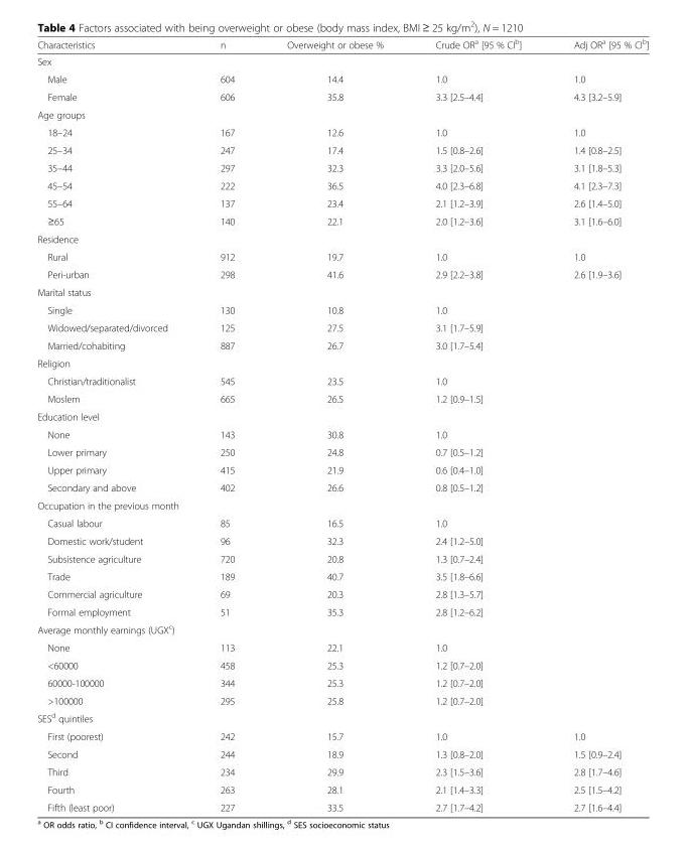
<table><thead><tr><td>Characteristics</td><td>n</td><td>Overweight or obese %</td><td>Crude OR<sup>a</sup> [95 % CI<sup>b</sup>]</td><td>Adj OR<sup>a</sup> [95 % CI<sup>b</sup>]</td></tr></thead><tbody><tr><td colspan="5">Sex</td></tr><tr><td>Male</td><td>604</td><td>14.4</td><td>1.0</td><td>1.0</td></tr><tr><td>Female</td><td>606</td><td>35.8</td><td>3.3 [2.5–4.4]</td><td>4.3 [3.2–5.9]</td></tr><tr><td colspan="5">Age groups</td></tr><tr><td>18–24</td><td>167</td><td>12.6</td><td>1.0</td><td>1.0</td></tr><tr><td>25–34</td><td>247</td><td>17.4</td><td>1.5 [0.8–2.6]</td><td>1.4 [0.8–2.5]</td></tr><tr><td>35–44</td><td>297</td><td>32.3</td><td>3.3 [2.0–5.6]</td><td>3.1 [1.8–5.3]</td></tr><tr><td>45–54</td><td>222</td><td>36.5</td><td>4.0 [2.3–6.8]</td><td>4.1 [2.3–7.3]</td></tr><tr><td>55–64</td><td>137</td><td>23.4</td><td>2.1 [1.2–3.9]</td><td>2.6 [1.4–5.0]</td></tr><tr><td>≥65</td><td>140</td><td>22.1</td><td>2.0 [1.2–3.6]</td><td>3.1 [1.6–6.0]</td></tr><tr><td colspan="5">Residence</td></tr><tr><td>Rural</td><td>912</td><td>19.7</td><td>1.0</td><td>1.0</td></tr><tr><td>Peri-urban</td><td>298</td><td>41.6</td><td>2.9 [2.2–3.8]</td><td>2.6 [1.9–3.6]</td></tr><tr><td colspan="5">Marital status</td></tr><tr><td>Single</td><td>130</td><td>10.8</td><td>1.0</td><td></td></tr><tr><td>Widowed/separated/divorced</td><td>125</td><td>27.5</td><td>3.1 [1.7–5.9]</td><td></td></tr><tr><td>Married/cohabiting</td><td>887</td><td>26.7</td><td>3.0 [1.7–5.4]</td><td></td></tr><tr><td colspan="5">Religion</td></tr><tr><td>Christian/traditionalist</td><td>545</td><td>23.5</td><td>1.0</td><td></td></tr><tr><td>Moslem</td><td>665</td><td>26.5</td><td>1.2 [0.9–1.5]</td><td></td></tr><tr><td colspan="5">Education level</td></tr><tr><td>None</td><td>143</td><td>30.8</td><td>1.0</td><td></td></tr><tr><td>Lower primary</td><td>250</td><td>24.8</td><td>0.7 [0.5–1.2]</td><td></td></tr><tr><td>Upper primary</td><td>415</td><td>21.9</td><td>0.6 [0.4–1.0]</td><td></td></tr><tr><td>Secondary and above</td><td>402</td><td>26.6</td><td>0.8 [0.5–1.2]</td><td></td></tr><tr><td colspan="5">Occupation in the previous month</td></tr><tr><td>Casual labour</td><td>85</td><td>16.5</td><td>1.0</td><td></td></tr><tr><td>Domestic work/student</td><td>96</td><td>32.3</td><td>2.4 [1.2–5.0]</td><td></td></tr><tr><td>Subsistence agriculture</td><td>720</td><td>20.8</td><td>1.3 [0.7–2.4]</td><td></td></tr><tr><td>Trade</td><td>189</td><td>40.7</td><td>3.5 [1.8–6.6]</td><td></td></tr><tr><td>Commercial agriculture</td><td>69</td><td>20.3</td><td>2.8 [1.3–5.7]</td><td></td></tr><tr><td>Formal employment</td><td>51</td><td>35.3</td><td>2.8 [1.2–6.2]</td><td></td></tr><tr><td colspan="5">Average monthly earnings (UGX<sup>c</sup>)</td></tr><tr><td>None</td><td>113</td><td>22.1</td><td>1.0</td><td></td></tr><tr><td>&lt;60000</td><td>458</td><td>25.3</td><td>1.2 [0.7–2.0]</td><td></td></tr><tr><td>60000-100000</td><td>344</td><td>25.3</td><td>1.2 [0.7–2.0]</td><td></td></tr><tr><td>&gt;100000</td><td>295</td><td>25.8</td><td>1.2 [0.7–2.0]</td><td></td></tr><tr><td colspan="5">SES<sup>d</sup> quintiles</td></tr><tr><td>First (poorest)</td><td>242</td><td>15.7</td><td>1.0</td><td>1.0</td></tr><tr><td>Second</td><td>244</td><td>18.9</td><td>1.3 [0.8–2.0]</td><td>1.5 [0.9–2.4]</td></tr><tr><td>Third</td><td>234</td><td>29.9</td><td>2.3 [1.5–3.6]</td><td>2.8 [1.7–4.6]</td></tr><tr><td>Fourth</td><td>263</td><td>28.1</td><td>2.1 [1.4–3.3]</td><td>2.5 [1.5–4.2]</td></tr><tr><td>Fifth (least poor)</td><td>227</td><td>33.5</td><td>2.7 [1.7–4.2]</td><td>2.7 [1.6–4.4]</td></tr></tbody></table>